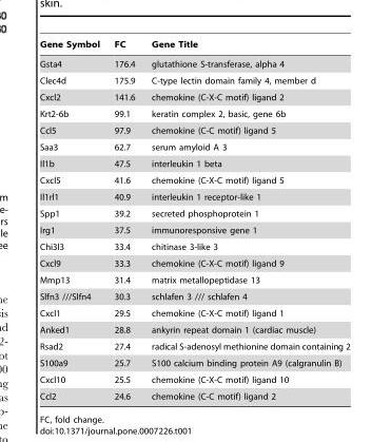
<table><thead><tr><td>Gene Symbol</td><td>FC</td><td>Gene Title</td></tr></thead><tbody><tr><td>Gsta4</td><td>176.4</td><td>glutathione S-transferase, alpha 4</td></tr><tr><td>Clec4d</td><td>175.9</td><td>C-type lectin domain family 4, member d</td></tr><tr><td>Cxcl2</td><td>141.6</td><td>chemokine (C-X-C motif) ligand 2</td></tr><tr><td>Krt2-6b</td><td>99.1</td><td>keratin complex 2, basic, gene 6b</td></tr><tr><td>Ccl5</td><td>97.9</td><td>chemokine (C-C motif) ligand 5</td></tr><tr><td>Saa3</td><td>62.7</td><td>serum amyloid A 3</td></tr><tr><td>Il1b</td><td>47.5</td><td>interleukin 1 beta</td></tr><tr><td>Cxcl5</td><td>41.6</td><td>chemokine (C-X-C motif) ligand 5</td></tr><tr><td>Il1rl1</td><td>40.9</td><td>interleukin 1 receptor-like 1</td></tr><tr><td>Spp1</td><td>39.2</td><td>secreted phosphoprotein 1</td></tr><tr><td>Irg1</td><td>37.5</td><td>immunoresponsive gene 1</td></tr><tr><td>Chi3l3</td><td>33.4</td><td>chitinase 3-like 3</td></tr><tr><td>Cxcl9</td><td>33.3</td><td>chemokine (C-X-C motif) ligand 9</td></tr><tr><td>Mmp13</td><td>31.4</td><td>matrix metallopeptidase 13</td></tr><tr><td>Slfn3 ///Slfn4</td><td>30.3</td><td>schlafen 3 /// schlafen 4</td></tr><tr><td>Cxcl1</td><td>29.5</td><td>chemokine (C-X-C motif) ligand 1</td></tr><tr><td>Anked1</td><td>28.8</td><td>ankyrin repeat domain 1 (cardiac muscle)</td></tr><tr><td>Rsad2</td><td>27.4</td><td>radical S-adenosyl methionine domain containing 2</td></tr><tr><td>S100a9</td><td>25.7</td><td>S100 calcium binding protein A9 (calgranulin B)</td></tr><tr><td>Cxcl10</td><td>25.5</td><td>chemokine (C-X-C motif) ligand 10</td></tr><tr><td>Ccl2</td><td>24.6</td><td>chemokine (C-C motif) ligand 2</td></tr></tbody></table>